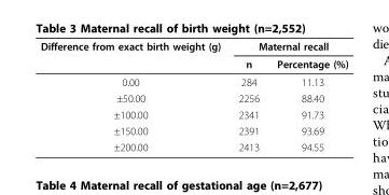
<table><thead><tr><td rowspan="2">Difference from exact birth weight (g)</td><td colspan="2">Maternal recall</td></tr><tr><td>n</td><td>Percentage (%)</td></tr></thead><tbody><tr><td>0.00</td><td>284</td><td>11.13</td></tr><tr><td>±50.00</td><td>2256</td><td>88.40</td></tr><tr><td>±100.00</td><td>2341</td><td>91.73</td></tr><tr><td>±150.00</td><td>2391</td><td>93.69</td></tr><tr><td>±200.00</td><td>2413</td><td>94.55</td></tr></tbody></table>